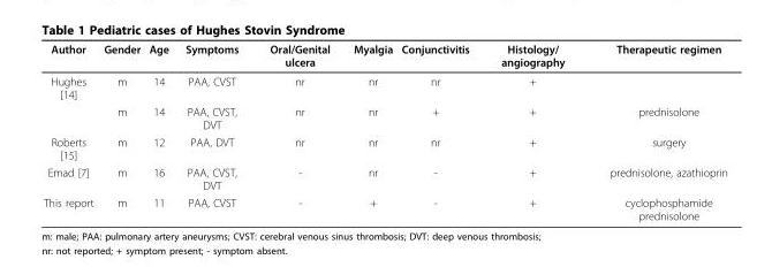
<table><thead><tr><td>Author</td><td>Gender</td><td>Age</td><td>Symptoms</td><td>Oral/Genital ulcera</td><td>Myalgia</td><td>Conjunctivitis</td><td>Histology/ angiography</td><td>Therapeutic regimen</td></tr></thead><tbody><tr><td rowspan="2">Hughes [14]</td><td>m</td><td>14</td><td>PAA, CVST</td><td>nr</td><td>nr</td><td>nr</td><td>+</td><td></td></tr><tr><td>m</td><td>14</td><td>PAA, CVST, DVT</td><td>nr</td><td>nr</td><td>+</td><td>+</td><td>prednisolone</td></tr><tr><td>Roberts [15]</td><td>m</td><td>12</td><td>PAA, DVT</td><td>nr</td><td>nr</td><td>nr</td><td>+</td><td>surgery</td></tr><tr><td>Emad [7]</td><td>m</td><td>16</td><td>PAA, CVST, DVT</td><td>-</td><td>nr</td><td>-</td><td>+</td><td>prednisolone, azathioprin</td></tr><tr><td>This report</td><td>m</td><td>11</td><td>PAA, CVST</td><td>-</td><td>+</td><td>-</td><td>+</td><td>cyclophosphamide prednisolone</td></tr></tbody></table>